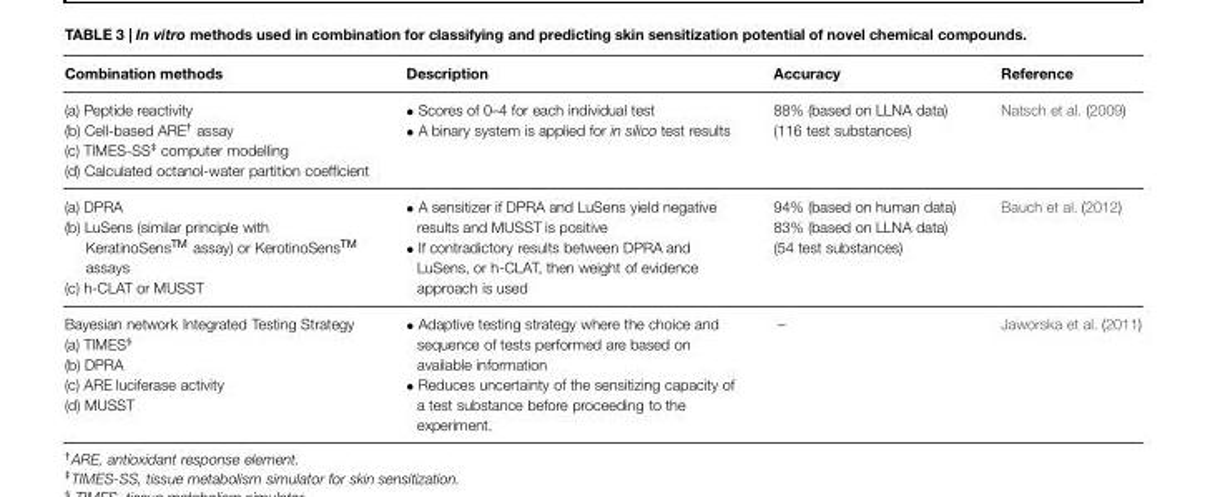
<table><thead><tr><td>Combination methods</td><td>Description</td><td>Accuracy</td><td>Reference</td></tr></thead><tbody><tr><td>(a) Peptide reactivity (b) Cell-based ARE<sup>†</sup> assay (c) TIMES-SS<sup>‡</sup> computer modelling (d) Calculated octanol-water partition coefficient</td><td>• Scores of 0–4 for each individual test • A binary system is applied for in silico test results</td><td>88% (based on LLNA data) (116 test substances)</td><td>Natsch et al. (2009)</td></tr><tr><td>(a) DPRA (b) LuSens (similar principle with KeratinoSens<sup>TM</sup> assay) or KerotinoSens<sup>TM</sup> assays (c) h-CLAT or MUSST</td><td>• A sensitizer if DPRA and LuSens yield negative results and MUSST is positive • If contradictory results between DPRA and LuSens, or h-CLAT, then weight of evidence approach is used</td><td>94% (based on human data) 83% (based on LLNA data) (54 test substances)</td><td>Bauch et al. (2012)</td></tr><tr><td>Bayesian network Integrated Testing Strategy (a) TIMES<sup>§</sup> (b) DPRA (c) ARE luciferase activity (d) MUSST</td><td>• Adaptive testing strategy where the choice and sequence of tests performed are based on available information • Reduces uncertainty of the sensitizing capacity of a test substance before proceeding to the experiment.</td><td>–</td><td>Jaworska et al. (2011)</td></tr></tbody></table>